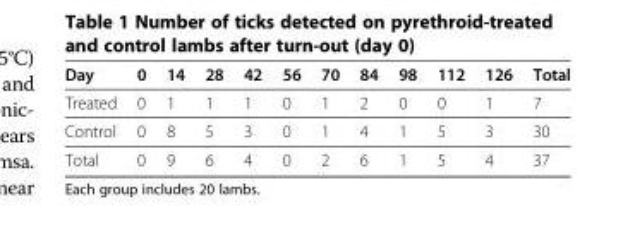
<table><thead><tr><td>Day</td><td>0</td><td>14</td><td>28</td><td>42</td><td>56</td><td>70</td><td>84</td><td>98</td><td>112</td><td>126</td><td>Total</td></tr></thead><tbody><tr><td>Treated</td><td>0</td><td>1</td><td>1</td><td>1</td><td>0</td><td>1</td><td>2</td><td>0</td><td>0</td><td>1</td><td>7</td></tr><tr><td>Control</td><td>0</td><td>8</td><td>5</td><td>3</td><td>0</td><td>1</td><td>4</td><td>1</td><td>5</td><td>3</td><td>30</td></tr><tr><td>Total</td><td>0</td><td>9</td><td>6</td><td>4</td><td>0</td><td>2</td><td>6</td><td>1</td><td>5</td><td>4</td><td>37</td></tr></tbody></table>